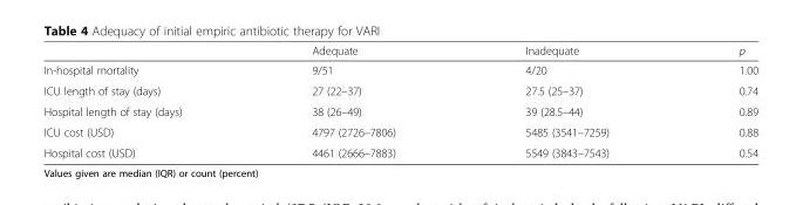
<table><thead><tr><td></td><td>Adequate</td><td>Inadequate</td><td>p</td></tr></thead><tbody><tr><td>In-hospital mortality</td><td>9/51</td><td>4/20</td><td>1.00</td></tr><tr><td>ICU length of stay (days)</td><td>27 (22–37)</td><td>27.5 (25–37)</td><td>0.74</td></tr><tr><td>Hospital length of stay (days)</td><td>38 (26–49)</td><td>39 (28.5–44)</td><td>0.89</td></tr><tr><td>ICU cost (USD)</td><td>4797 (2726–7806)</td><td>5485 (3541–7259)</td><td>0.88</td></tr><tr><td>Hospital cost (USD)</td><td>4461 (2666–7883)</td><td>5549 (3843–7543)</td><td>0.54</td></tr></tbody></table>